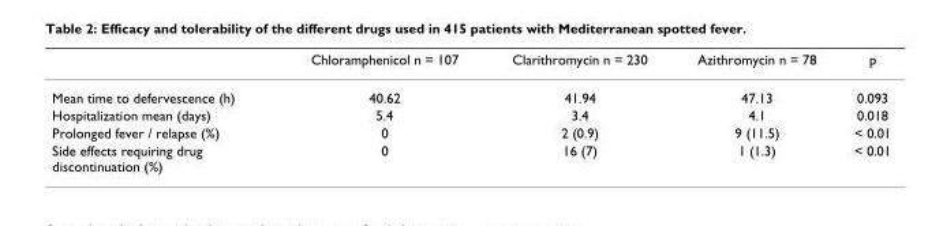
<table><thead><tr><td></td><td>Chloramphenicol n = 107</td><td>Clarithromycin n = 230</td><td>Azithromycin n = 78</td><td>p</td></tr></thead><tbody><tr><td>Mean time to defervescence (h)</td><td>40.62</td><td>41.94</td><td>47.13</td><td>0.093</td></tr><tr><td>Hospitalization mean (days)</td><td>5.4</td><td>3.4</td><td>4.1</td><td>0.018</td></tr><tr><td>Prolonged fever / relapse (%)</td><td>0</td><td>2 (0.9)</td><td>9 (11.5)</td><td>&lt; 0.01</td></tr><tr><td>Side effects requiring drug discontinuation (%)</td><td>0</td><td>16 (7)</td><td>1 (1.3)</td><td>&lt; 0.01</td></tr></tbody></table>